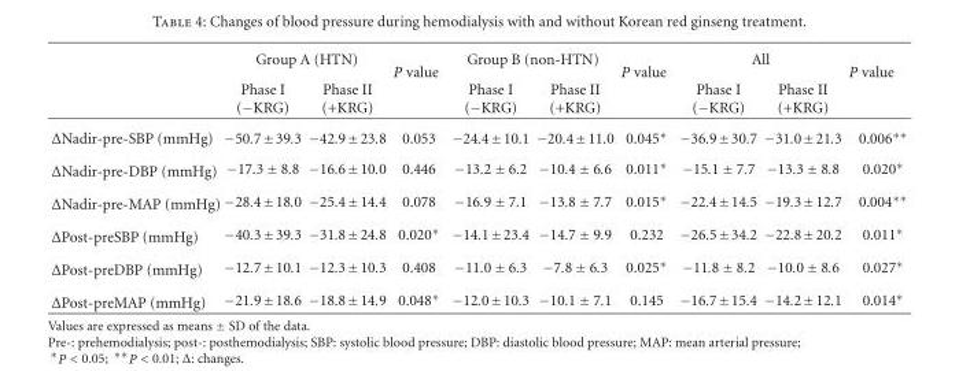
<table><thead><tr><td rowspan="2"></td><td colspan="2">Group A (HTN)</td><td rowspan="2">P value</td><td colspan="2">Group B (non-HTN)</td><td rowspan="2">P value</td><td colspan="2">All</td><td rowspan="2">P value</td></tr><tr><td>Phase I (−KRG)</td><td>Phase II (+KRG)</td><td>Phase I (−KRG)</td><td>Phase II (+KRG)</td><td>Phase I (−KRG)</td><td>Phase II (+KRG)</td></tr></thead><tbody><tr><td>ΔNadir-pre-SBP (mmHg)</td><td>−50.7±39.3</td><td>−42.9±23.8</td><td>0.053</td><td>−24.4±10.1</td><td>−20.4±11.0</td><td>0.045∗</td><td>−36.9±30.7</td><td>−31.0±21.3</td><td>0.006∗∗</td></tr><tr><td>ΔNadir-pre-DBP (mmHg)</td><td>−17.3 ± 8.8</td><td>−16.6±10.0</td><td>0.446</td><td>−13.2 ± 6.2</td><td>−10.4 ± 6.6</td><td>0.011∗</td><td>−15.1 ± 7.7</td><td>−13.3 ± 8.8</td><td>0.020∗</td></tr><tr><td>ΔNadir-pre-MAP (mmHg)</td><td>−28.4±18.0</td><td>−25.4±14.4</td><td>0.078</td><td>−16.9 ± 7.1</td><td>−13.8 ± 7.7</td><td>0.015∗</td><td>−22.4±14.5</td><td>−19.3±12.7</td><td>0.004∗∗</td></tr><tr><td>ΔPost-preSBP (mmHg)</td><td>−40.3±39.3</td><td>−31.8±24.8</td><td>0.020∗</td><td>−14.1±23.4</td><td>−14.7 ± 9.9</td><td>0.232</td><td>−26.5±34.2</td><td>−22.8±20.2</td><td>0.011∗</td></tr><tr><td>ΔPost-preDBP (mmHg)</td><td>−12.7±10.1</td><td>−12.3±10.3</td><td>0.408</td><td>−11.0 ± 6.3</td><td>−7.8 ± 6.3</td><td>0.025∗</td><td>−11.8 ± 8.2</td><td>−10.0 ± 8.6</td><td>0.027∗</td></tr><tr><td>ΔPost-preMAP (mmHg)</td><td>−21.9±18.6</td><td>−18.8±14.9</td><td>0.048∗</td><td>−12.0±10.3</td><td>−10.1 ± 7.1</td><td>0.145</td><td>−16.7±15.4</td><td>−14.2±12.1</td><td>0.014∗</td></tr></tbody></table>